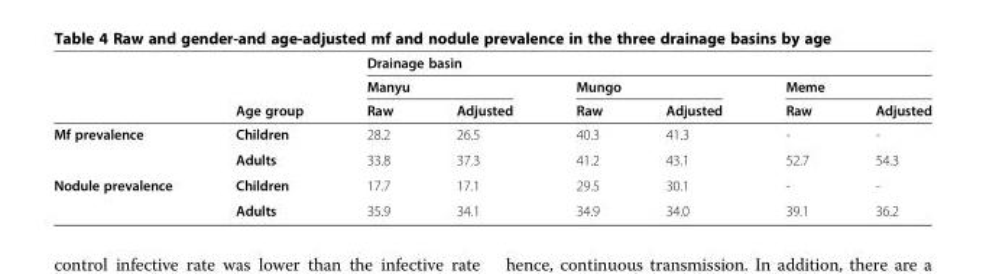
<table><thead><tr><td rowspan="3"></td><td rowspan="3">Age group</td><td colspan="6">Drainage basin</td></tr><tr><td colspan="2">Manyu</td><td colspan="2">Mungo</td><td colspan="2">Meme</td></tr><tr><td>Raw</td><td>Adjusted</td><td>Raw</td><td>Adjusted</td><td>Raw</td><td>Adjusted</td></tr></thead><tbody><tr><td rowspan="2">Mf prevalence</td><td>Children</td><td>28.2</td><td>26.5</td><td>40.3</td><td>41.3</td><td>-</td><td>-</td></tr><tr><td>Adults</td><td>33.8</td><td>37.3</td><td>41.2</td><td>43.1</td><td>52.7</td><td>54.3</td></tr><tr><td rowspan="2">Nodule prevalence</td><td>Children</td><td>17.7</td><td>17.1</td><td>29.5</td><td>30.1</td><td>-</td><td>-</td></tr><tr><td>Adults</td><td>35.9</td><td>34.1</td><td>34.9</td><td>34.0</td><td>39.1</td><td>36.2</td></tr></tbody></table>